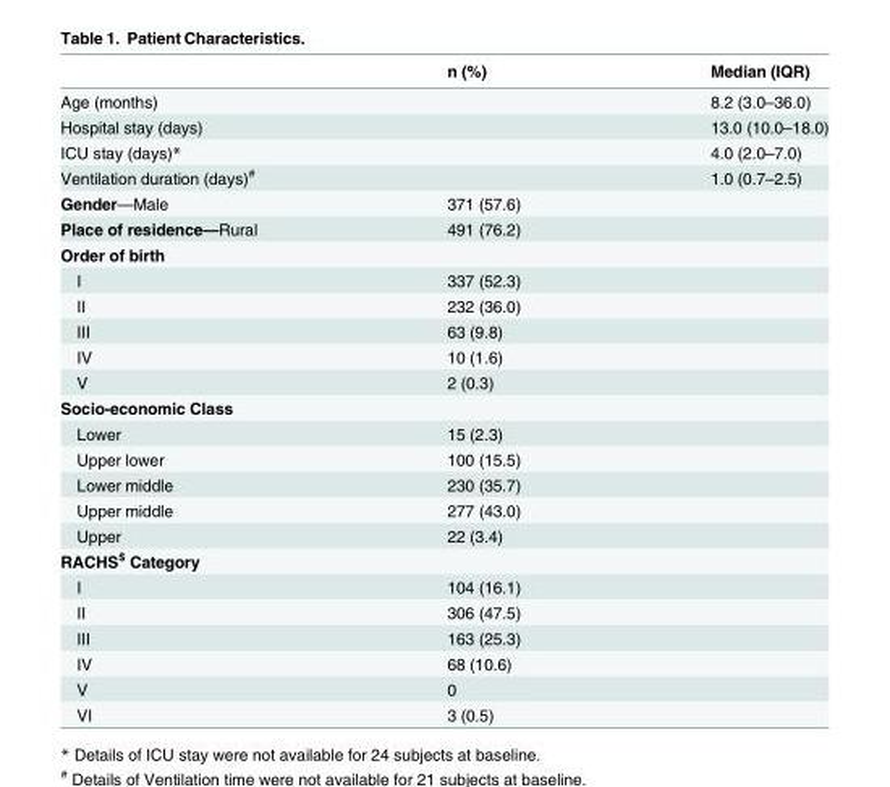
<table><thead><tr><td></td><td>n (%)</td><td>Median (IQR)</td></tr></thead><tbody><tr><td>Age (months)</td><td></td><td>8.2 (3.0–36.0)</td></tr><tr><td>Hospital stay (days)</td><td></td><td>13.0 (10.0–18.0)</td></tr><tr><td>ICU stay (days)*</td><td></td><td>4.0 (2.0–7.0)</td></tr><tr><td>Ventilation duration (days)<sup>#</sup></td><td></td><td>1.0 (0.7–2.5)</td></tr><tr><td>Gender—Male</td><td>371 (57.6)</td><td></td></tr><tr><td>Place of residence—Rural</td><td>491 (76.2)</td><td></td></tr><tr><td colspan="3">Order of birth</td></tr><tr><td>I</td><td>337 (52.3)</td><td></td></tr><tr><td>II</td><td>232 (36.0)</td><td></td></tr><tr><td>III</td><td>63 (9.8)</td><td></td></tr><tr><td>IV</td><td>10 (1.6)</td><td></td></tr><tr><td>V</td><td>2 (0.3)</td><td></td></tr><tr><td colspan="3">Socio-economic Class</td></tr><tr><td>Lower</td><td>15 (2.3)</td><td></td></tr><tr><td>Upper lower</td><td>100 (15.5)</td><td></td></tr><tr><td>Lower middle</td><td>230 (35.7)</td><td></td></tr><tr><td>Upper middle</td><td>277 (43.0)</td><td></td></tr><tr><td>Upper</td><td>22 (3.4)</td><td></td></tr><tr><td colspan="3">RACHS<sup>$</sup> Category</td></tr><tr><td>I</td><td>104 (16.1)</td><td></td></tr><tr><td>II</td><td>306 (47.5)</td><td></td></tr><tr><td>III</td><td>163 (25.3)</td><td></td></tr><tr><td>IV</td><td>68 (10.6)</td><td></td></tr><tr><td>V</td><td>0</td><td></td></tr><tr><td>VI</td><td>3 (0.5)</td><td></td></tr></tbody></table>